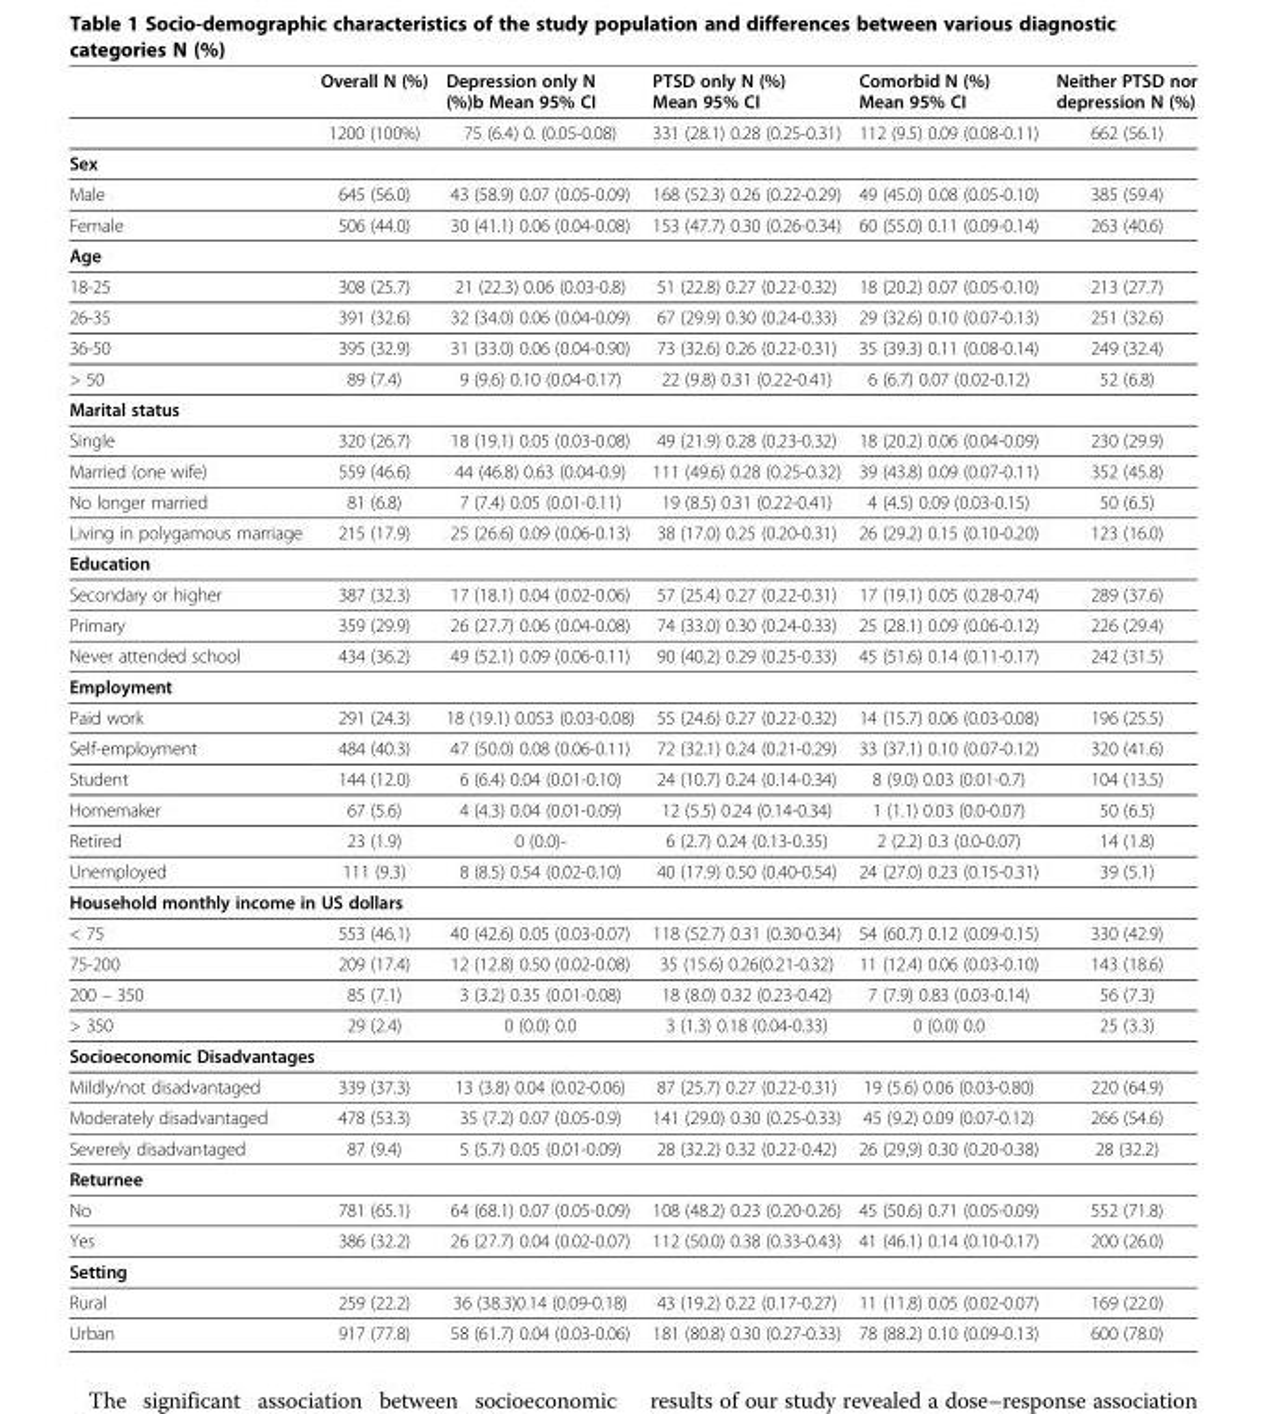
<table><thead><tr><td></td><td>Overall N (%)</td><td>Depression only N (%)b Mean 95% CI</td><td>PTSD only N (%) Mean 95% CI</td><td>Comorbid N (%) Mean 95% CI</td><td>Neither PTSD nor depression N (%)</td></tr></thead><tbody><tr><td></td><td>1200 (100%)</td><td>75 (6.4) 0. (0.05-0.08)</td><td>331 (28.1) 0.28 (0.25-0.31)</td><td>112 (9.5) 0.09 (0.08-0.11)</td><td>662 (56.1)</td></tr><tr><td colspan="6">Sex</td></tr><tr><td>Male</td><td>645 (56.0)</td><td>43 (58.9) 0.07 (0.05-0.09)</td><td>168 (52.3) 0.26 (0.22-0.29)</td><td>49 (45.0) 0.08 (0.05-0.10)</td><td>385 (59.4)</td></tr><tr><td>Female</td><td>506 (44.0)</td><td>30 (41.1) 0.06 (0.04-0.08)</td><td>153 (47.7) 0.30 (0.26-0.34)</td><td>60 (55.0) 0.11 (0.09-0.14)</td><td>263 (40.6)</td></tr><tr><td colspan="6">Age</td></tr><tr><td>18-25</td><td>308 (25.7)</td><td>21 (22.3) 0.06 (0.03-0.8)</td><td>51 (22.8) 0.27 (0.22-0.32)</td><td>18 (20.2) 0.07 (0.05-0.10)</td><td>213 (27.7)</td></tr><tr><td>26-35</td><td>391 (32.6)</td><td>32 (34.0) 0.06 (0.04-0.09)</td><td>67 (29.9) 0.30 (0.24-0.33)</td><td>29 (32.6) 0.10 (0.07-0.13)</td><td>251 (32.6)</td></tr><tr><td>36-50</td><td>395 (32.9)</td><td>31 (33.0) 0.06 (0.04-0.90)</td><td>73 (32.6) 0.26 (0.22-0.31)</td><td>35 (39.3) 0.11 (0.08-0.14)</td><td>249 (32.4)</td></tr><tr><td>&gt; 50</td><td>89 (7.4)</td><td>9 (9.6) 0.10 (0.04-0.17)</td><td>22 (9.8) 0.31 (0.22-0.41)</td><td>6 (6.7) 0.07 (0.02-0.12)</td><td>52 (6.8)</td></tr><tr><td colspan="6">Marital status</td></tr><tr><td>Single</td><td>320 (26.7)</td><td>18 (19.1) 0.05 (0.03-0.08)</td><td>49 (21.9) 0.28 (0.23-0.32)</td><td>18 (20.2) 0.06 (0.04-0.09)</td><td>230 (29.9)</td></tr><tr><td>Married (one wife)</td><td>559 (46.6)</td><td>44 (46.8) 0.63 (0.04-0.9)</td><td>111 (49.6) 0.28 (0.25-0.32)</td><td>39 (43.8) 0.09 (0.07-0.11)</td><td>352 (45.8)</td></tr><tr><td>No longer married</td><td>81 (6.8)</td><td>7 (7.4) 0.05 (0.01-0.11)</td><td>19 (8.5) 0.31 (0.22-0.41)</td><td>4 (4.5) 0.09 (0.03-0.15)</td><td>50 (6.5)</td></tr><tr><td>Living in polygamous marriage</td><td>215 (17.9)</td><td>25 (26.6) 0.09 (0.06-0.13)</td><td>38 (17.0) 0.25 (0.20-0.31)</td><td>26 (29.2) 0.15 (0.10-0.20)</td><td>123 (16.0)</td></tr><tr><td colspan="6">Education</td></tr><tr><td>Secondary or higher</td><td>387 (32.3)</td><td>17 (18.1) 0.04 (0.02-0.06)</td><td>57 (25.4) 0.27 (0.22-0.31)</td><td>17 (19.1) 0.05 (0.28-0.74)</td><td>289 (37.6)</td></tr><tr><td>Primary</td><td>359 (29.9)</td><td>26 (27.7) 0.06 (0.04-0.08)</td><td>74 (33.0) 0.30 (0.24-0.33)</td><td>25 (28.1) 0.09 (0.06-0.12)</td><td>226 (29.4)</td></tr><tr><td>Never attended school</td><td>434 (36.2)</td><td>49 (52.1) 0.09 (0.06-0.11)</td><td>90 (40.2) 0.29 (0.25-0.33)</td><td>45 (51.6) 0.14 (0.11-0.17)</td><td>242 (31.5)</td></tr><tr><td colspan="6">Employment</td></tr><tr><td>Paid work</td><td>291 (24.3)</td><td>18 (19.1) 0.053 (0.03-0.08)</td><td>55 (24.6) 0.27 (0.22-0.32)</td><td>14 (15.7) 0.06 (0.03-0.08)</td><td>196 (25.5)</td></tr><tr><td>Self-employment</td><td>484 (40.3)</td><td>47 (50.0) 0.08 (0.06-0.11)</td><td>72 (32.1) 0.24 (0.21-0.29)</td><td>33 (37.1) 0.10 (0.07-0.12)</td><td>320 (41.6)</td></tr><tr><td>Student</td><td>144 (12.0)</td><td>6 (6.4) 0.04 (0.01-0.10)</td><td>24 (10.7) 0.24 (0.14-0.34)</td><td>8 (9.0) 0.03 (0.01-0.7)</td><td>104 (13.5)</td></tr><tr><td>Homemaker</td><td>67 (5.6)</td><td>4 (4.3) 0.04 (0.01-0.09)</td><td>12 (5.5) 0.24 (0.14-0.34)</td><td>1 (1.1) 0.03 (0.0-0.07)</td><td>50 (6.5)</td></tr><tr><td>Retired</td><td>23 (1.9)</td><td>0 (0.0)-</td><td>6 (2.7) 0.24 (0.13-0.35)</td><td>2 (2.2) 0.3 (0.0-0.07)</td><td>14 (1.8)</td></tr><tr><td>Unemployed</td><td>111 (9.3)</td><td>8 (8.5) 0.54 (0.02-0.10)</td><td>40 (17.9) 0.50 (0.40-0.54)</td><td>24 (27.0) 0.23 (0.15-0.31)</td><td>39 (5.1)</td></tr><tr><td colspan="6">Household monthly income in US dollars</td></tr><tr><td>&lt; 75</td><td>553 (46.1)</td><td>40 (42.6) 0.05 (0.03-0.07)</td><td>118 (52.7) 0.31 (0.30-0.34)</td><td>54 (60.7) 0.12 (0.09-0.15)</td><td>330 (42.9)</td></tr><tr><td>75-200</td><td>209 (17.4)</td><td>12 (12.8) 0.50 (0.02-0.08)</td><td>35 (15.6) 0.26(0.21-0.32)</td><td>11 (12.4) 0.06 (0.03-0.10)</td><td>143 (18.6)</td></tr><tr><td>200 – 350</td><td>85 (7.1)</td><td>3 (3.2) 0.35 (0.01-0.08)</td><td>18 (8.0) 0.32 (0.23-0.42)</td><td>7 (7.9) 0.83 (0.03-0.14)</td><td>56 (7.3)</td></tr><tr><td>&gt; 350</td><td>29 (2.4)</td><td>0 (0.0) 0.0</td><td>3 (1.3) 0.18 (0.04-0.33)</td><td>0 (0.0) 0.0</td><td>25 (3.3)</td></tr><tr><td colspan="6">Socioeconomic Disadvantages</td></tr><tr><td>Mildly/not disadvantaged</td><td>339 (37.3)</td><td>13 (3.8) 0.04 (0.02-0.06)</td><td>87 (25.7) 0.27 (0.22-0.31)</td><td>19 (5.6) 0.06 (0.03-0.80)</td><td>220 (64.9)</td></tr><tr><td>Moderately disadvantaged</td><td>478 (53.3)</td><td>35 (7.2) 0.07 (0.05-0.9)</td><td>141 (29.0) 0.30 (0.25-0.33)</td><td>45 (9.2) 0.09 (0.07-0.12)</td><td>266 (54.6)</td></tr><tr><td>Severely disadvantaged</td><td>87 (9.4)</td><td>5 (5.7) 0.05 (0.01-0.09)</td><td>28 (32.2) 0.32 (0.22-0.42)</td><td>26 (29,9) 0.30 (0.20-0.38)</td><td>28 (32.2)</td></tr><tr><td colspan="6">Returnee</td></tr><tr><td>No</td><td>781 (65.1)</td><td>64 (68.1) 0.07 (0.05-0.09)</td><td>108 (48.2) 0.23 (0.20-0.26)</td><td>45 (50.6) 0.71 (0.05-0.09)</td><td>552 (71.8)</td></tr><tr><td>Yes</td><td>386 (32.2)</td><td>26 (27.7) 0.04 (0.02-0.07)</td><td>112 (50.0) 0.38 (0.33-0.43)</td><td>41 (46.1) 0.14 (0.10-0.17)</td><td>200 (26.0)</td></tr><tr><td colspan="6">Setting</td></tr><tr><td>Rural</td><td>259 (22.2)</td><td>36 (38.3)0.14 (0.09-0.18)</td><td>43 (19.2) 0.22 (0.17-0.27)</td><td>11 (11.8) 0.05 (0.02-0.07)</td><td>169 (22.0)</td></tr><tr><td>Urban</td><td>917 (77.8)</td><td>58 (61.7) 0.04 (0.03-0.06)</td><td>181 (80.8) 0.30 (0.27-0.33)</td><td>78 (88.2) 0.10 (0.09-0.13)</td><td>600 (78.0)</td></tr></tbody></table>